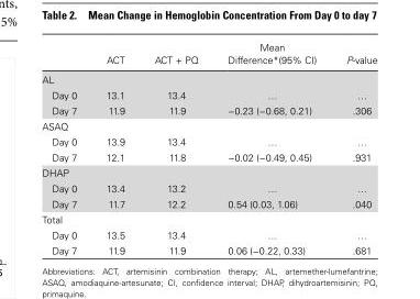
<table><thead><tr><td></td><td>ACT</td><td>ACT + PQ</td><td>Mean Difference*(95% CI)</td><td>P-value</td></tr></thead><tbody><tr><td colspan="5">AL</td></tr><tr><td>Day 0</td><td>13.1</td><td>13.4</td><td>…</td><td>…</td></tr><tr><td>Day 7</td><td>11.9</td><td>11.9</td><td>−0.23 (−0.68, 0.21)</td><td>.306</td></tr><tr><td colspan="5">ASAQ</td></tr><tr><td>Day 0</td><td>13.9</td><td>13.4</td><td>…</td><td>…</td></tr><tr><td>Day 7</td><td>12.1</td><td>11.8</td><td>−0.02 (−0.49, 0.45)</td><td>.931</td></tr><tr><td colspan="5">DHAP</td></tr><tr><td>Day 0</td><td>13.4</td><td>13.2</td><td>…</td><td>…</td></tr><tr><td>Day 7</td><td>11.7</td><td>12.2</td><td>0.54 (0.03, 1.06)</td><td>.040</td></tr><tr><td colspan="5">Total</td></tr><tr><td>Day 0</td><td>13.5</td><td>13.4</td><td>…</td><td>…</td></tr><tr><td>Day 7</td><td>11.9</td><td>11.9</td><td>0.06 (−0.22, 0.33)</td><td>.681</td></tr></tbody></table>